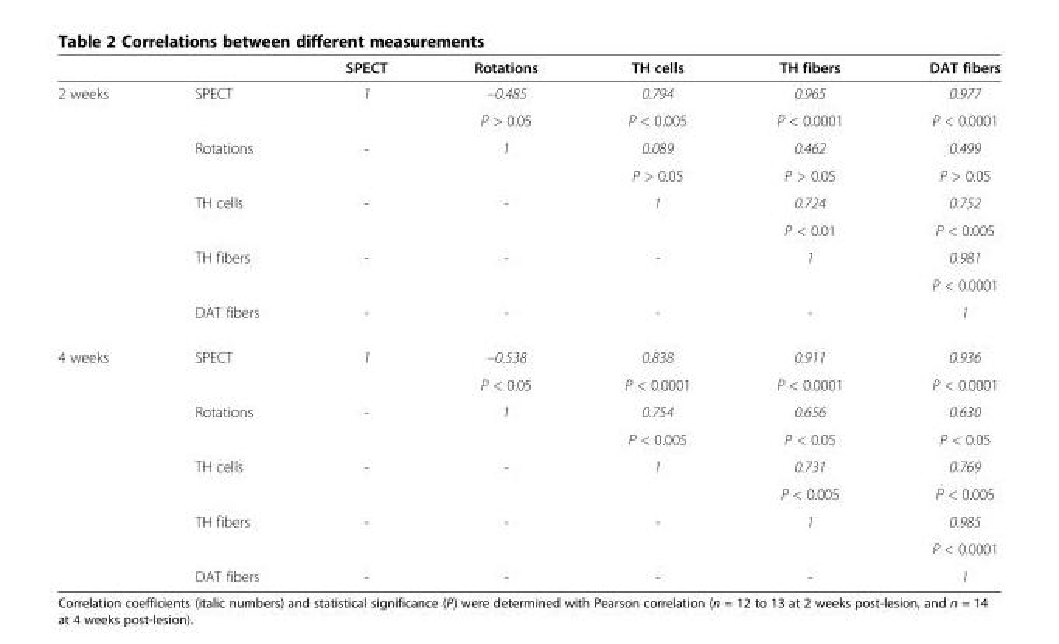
<table><thead><tr><td></td><td></td><td>SPECT</td><td>Rotations</td><td>TH cells</td><td>TH fibers</td><td>DAT fibers</td></tr></thead><tbody><tr><td rowspan="9">2 weeks</td><td rowspan="2">SPECT</td><td rowspan="2">1</td><td>−0.485</td><td>0.794</td><td>0.965</td><td>0.977</td></tr><tr><td>P &gt; 0.05</td><td>P &lt; 0.005</td><td>P &lt; 0.0001</td><td>P &lt; 0.0001</td></tr><tr><td rowspan="2">Rotations</td><td rowspan="2">-</td><td rowspan="2">1</td><td>0.089</td><td>0.462</td><td>0.499</td></tr><tr><td>P &gt; 0.05</td><td>P &gt; 0.05</td><td>P &gt; 0.05</td></tr><tr><td rowspan="2">TH cells</td><td rowspan="2">-</td><td rowspan="2">-</td><td rowspan="2">1</td><td>0.724</td><td>0.752</td></tr><tr><td>P &lt; 0.01</td><td>P &lt; 0.005</td></tr><tr><td rowspan="2">TH fibers</td><td rowspan="2">-</td><td rowspan="2">-</td><td rowspan="2">-</td><td rowspan="2">1</td><td>0.981</td></tr><tr><td>P &lt; 0.0001</td></tr><tr><td>DAT fibers</td><td>-</td><td>-</td><td>-</td><td>-</td><td>1</td></tr><tr><td rowspan="9">4 weeks</td><td rowspan="2">SPECT</td><td rowspan="2">1</td><td>−0.538</td><td>0.838</td><td>0.911</td><td>0.936</td></tr><tr><td>P &lt; 0.05</td><td>P &lt; 0.0001</td><td>P &lt; 0.0001</td><td>P &lt; 0.0001</td></tr><tr><td rowspan="2">Rotations</td><td rowspan="2">-</td><td rowspan="2">1</td><td>0.754</td><td>0.656</td><td>0.630</td></tr><tr><td>P &lt; 0.005</td><td>P &lt; 0.05</td><td>P &lt; 0.05</td></tr><tr><td rowspan="2">TH cells</td><td rowspan="2">-</td><td rowspan="2">-</td><td rowspan="2">1</td><td>0.731</td><td>0.769</td></tr><tr><td>P &lt; 0.005</td><td>P &lt; 0.005</td></tr><tr><td rowspan="2">TH fibers</td><td rowspan="2">-</td><td rowspan="2">-</td><td rowspan="2">-</td><td rowspan="2">1</td><td>0.985</td></tr><tr><td>P &lt; 0.0001</td></tr><tr><td>DAT fibers</td><td>-</td><td>-</td><td>-</td><td>-</td><td>1</td></tr></tbody></table>